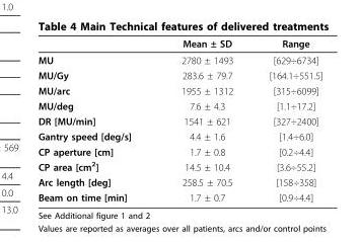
<table><thead><tr><td></td><td>Mean ± SD</td><td>Range</td></tr></thead><tbody><tr><td>MU</td><td>2780 ± 1493</td><td>[629÷6734]</td></tr><tr><td>MU/Gy</td><td>283.6 ± 79.7</td><td>[164.1÷551.5]</td></tr><tr><td>MU/arc</td><td>1955 ± 1312</td><td>[315÷6099]</td></tr><tr><td>MU/deg</td><td>7.6 ± 4.3</td><td>[1.1÷17.2]</td></tr><tr><td>DR [MU/min]</td><td>1541 ± 621</td><td>[327÷2400]</td></tr><tr><td>Gantry speed [deg/s]</td><td>4.4 ± 1.6</td><td>[1.4÷6.0]</td></tr><tr><td>CP aperture [cm]</td><td>1.7 ± 0.8</td><td>[0.2÷4.4]</td></tr><tr><td>CP area [cm<sup>2</sup>]</td><td>14.5 ± 10.4</td><td>[3.6÷55.2]</td></tr><tr><td>Arc length [deg]</td><td>258.5 ± 70.5</td><td>[158÷358]</td></tr><tr><td>Beam on time [min]</td><td>1.7 ± 0.7</td><td>[0.9÷4.4]</td></tr></tbody></table>